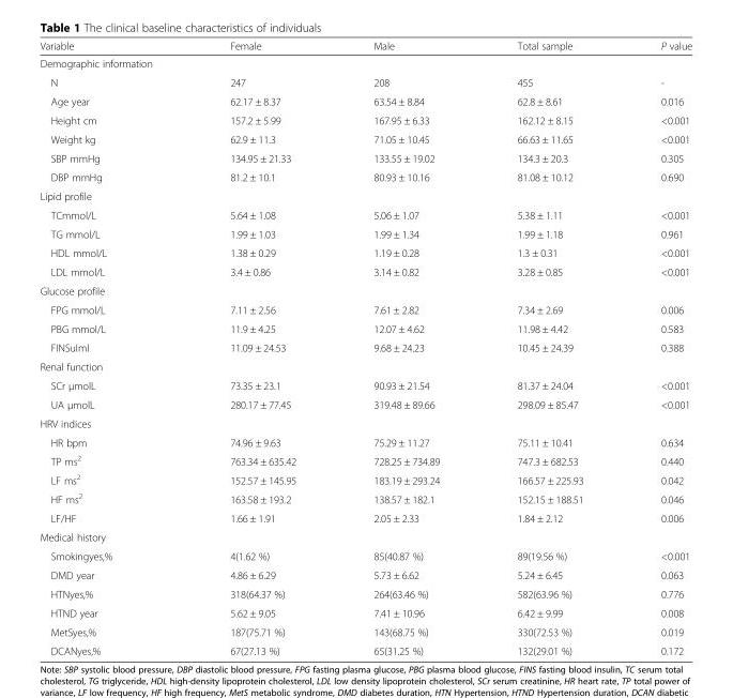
<table><thead><tr><td>Variable</td><td>Female</td><td>Male</td><td>Total sample</td><td>P value</td></tr></thead><tbody><tr><td colspan="5">Demographic information</td></tr><tr><td>N</td><td>247</td><td>208</td><td>455</td><td>-</td></tr><tr><td>Age year</td><td>62.17 ± 8.37</td><td>63.54 ± 8.84</td><td>62.8 ± 8.61</td><td>0.016</td></tr><tr><td>Height cm</td><td>157.2 ± 5.99</td><td>167.95 ± 6.33</td><td>162.12 ± 8.15</td><td>&lt;0.001</td></tr><tr><td>Weight kg</td><td>62.9 ± 11.3</td><td>71.05 ± 10.45</td><td>66.63 ± 11.65</td><td>&lt;0.001</td></tr><tr><td>SBP mmHg</td><td>134.95 ± 21.33</td><td>133.55 ± 19.02</td><td>134.3 ± 20.3</td><td>0.305</td></tr><tr><td>DBP mmHg</td><td>81.2 ± 10.1</td><td>80.93 ± 10.16</td><td>81.08 ± 10.12</td><td>0.690</td></tr><tr><td colspan="5">Lipid profile</td></tr><tr><td>TCmmol/L</td><td>5.64 ± 1.08</td><td>5.06 ± 1.07</td><td>5.38 ± 1.11</td><td>&lt;0.001</td></tr><tr><td>TG mmol/L</td><td>1.99 ± 1.03</td><td>1.99 ± 1.34</td><td>1.99 ± 1.18</td><td>0.961</td></tr><tr><td>HDL mmol/L</td><td>1.38 ± 0.29</td><td>1.19 ± 0.28</td><td>1.3 ± 0.31</td><td>&lt;0.001</td></tr><tr><td>LDL mmol/L</td><td>3.4 ± 0.86</td><td>3.14 ± 0.82</td><td>3.28 ± 0.85</td><td>&lt;0.001</td></tr><tr><td colspan="5">Glucose profile</td></tr><tr><td>FPG mmol/L</td><td>7.11 ± 2.56</td><td>7.61 ± 2.82</td><td>7.34 ± 2.69</td><td>0.006</td></tr><tr><td>PBG mmol/L</td><td>11.9 ± 4.25</td><td>12.07 ± 4.62</td><td>11.98 ± 4.42</td><td>0.583</td></tr><tr><td>FINSuIml</td><td>11.09 ± 24.53</td><td>9.68 ± 24.23</td><td>10.45 ± 24.39</td><td>0.388</td></tr><tr><td colspan="5">Renal function</td></tr><tr><td>SCr μmolL</td><td>73.35 ± 23.1</td><td>90.93 ± 21.54</td><td>81.37 ± 24.04</td><td>&lt;0.001</td></tr><tr><td>UA μmolL</td><td>280.17 ± 77.45</td><td>319.48 ± 89.66</td><td>298.09 ± 85.47</td><td>&lt;0.001</td></tr><tr><td colspan="5">HRV indices</td></tr><tr><td>HR bpm</td><td>74.96 ± 9.63</td><td>75.29 ± 11.27</td><td>75.11 ± 10.41</td><td>0.634</td></tr><tr><td>TP ms<sup>2</sup></td><td>763.34 ± 635.42</td><td>728.25 ± 734.89</td><td>747.3 ± 682.53</td><td>0.440</td></tr><tr><td>LF ms<sup>2</sup></td><td>152.57 ± 145.95</td><td>183.19 ± 293.24</td><td>166.57 ± 225.93</td><td>0.042</td></tr><tr><td>HF ms<sup>2</sup></td><td>163.58 ± 193.2</td><td>138.57 ± 182.1</td><td>152.15 ± 188.51</td><td>0.046</td></tr><tr><td>LF/HF</td><td>1.66 ± 1.91</td><td>2.05 ± 2.33</td><td>1.84 ± 2.12</td><td>0.006</td></tr><tr><td colspan="5">Medical history</td></tr><tr><td>Smokingyes,%</td><td>4(1.62 %)</td><td>85(40.87 %)</td><td>89(19.56 %)</td><td>&lt;0.001</td></tr><tr><td>DMD year</td><td>4.86 ± 6.29</td><td>5.73 ± 6.62</td><td>5.24 ± 6.45</td><td>0.063</td></tr><tr><td>HTNyes,%</td><td>318(64.37 %)</td><td>264(63.46 %)</td><td>582(63.96 %)</td><td>0.776</td></tr><tr><td>HTND year</td><td>5.62 ± 9.05</td><td>7.41 ± 10.96</td><td>6.42 ± 9.99</td><td>0.008</td></tr><tr><td>MetSyes,%</td><td>187(75.71 %)</td><td>143(68.75 %)</td><td>330(72.53 %)</td><td>0.019</td></tr><tr><td>DCANyes,%</td><td>67(27.13 %)</td><td>65(31.25 %)</td><td>132(29.01 %)</td><td>0.172</td></tr></tbody></table>